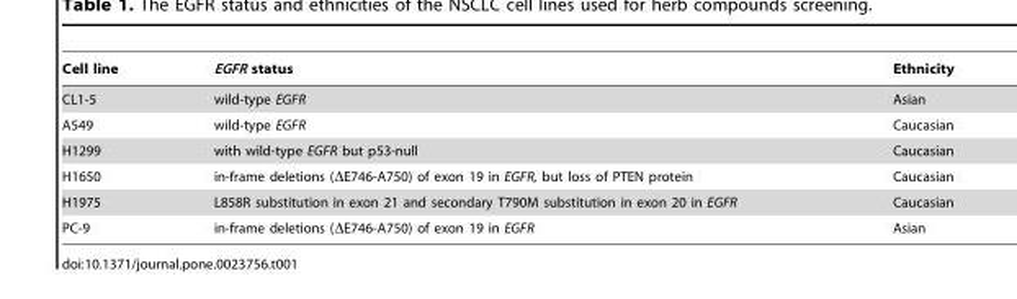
<table><thead><tr><td>Cell line</td><td>EGFR status</td><td>Ethnicity</td></tr></thead><tbody><tr><td>CL1-5</td><td>wild-type EGFR</td><td>Asian</td></tr><tr><td>A549</td><td>wild-type EGFR</td><td>Caucasian</td></tr><tr><td>H1299</td><td>with wild-type EGFR but p53-null</td><td>Caucasian</td></tr><tr><td>H1650</td><td>in-frame deletions (ΔE746-A750) of exon 19 in EGFR, but loss of PTEN protein</td><td>Caucasian</td></tr><tr><td>H1975</td><td>L858R substitution in exon 21 and secondary T790M substitution in exon 20 in EGFR</td><td>Caucasian</td></tr><tr><td>PC-9</td><td>in-frame deletions (ΔE746-A750) of exon 19 in EGFR</td><td>Asian</td></tr></tbody></table>